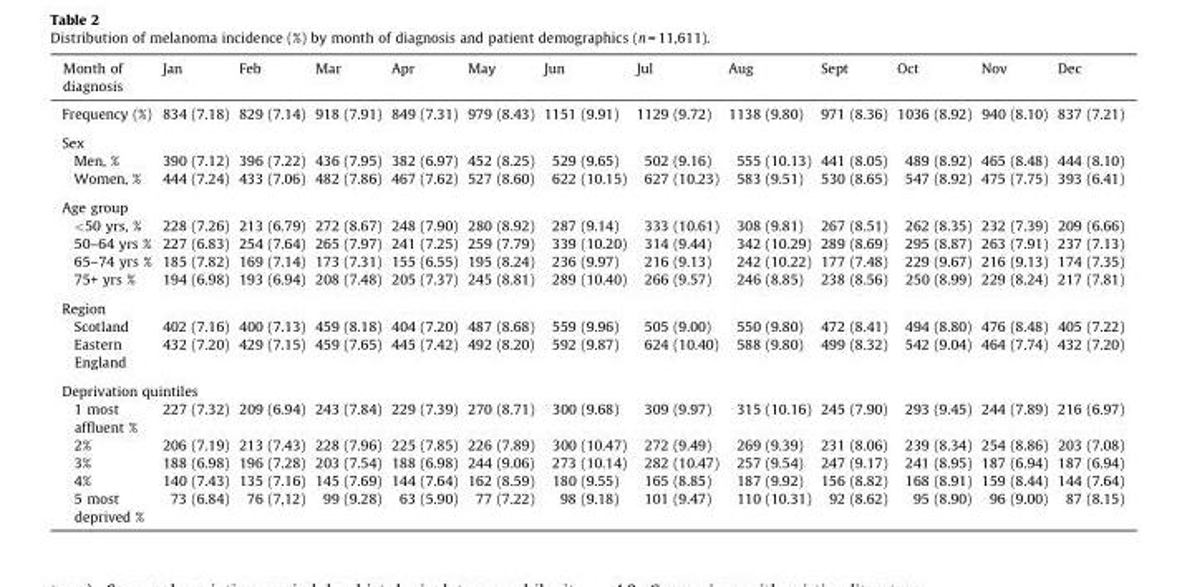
<table><thead><tr><td>Month of diagnosis</td><td>Jan</td><td>Feb</td><td>Mar</td><td>Apr</td><td>May</td><td>Jun</td><td>Jul</td><td>Aug</td><td>Sept</td><td>Oct</td><td>Nov</td><td>Dec</td></tr></thead><tbody><tr><td>Frequency (%)</td><td>834 (7.18)</td><td>829 (7.14)</td><td>918 (7.91)</td><td>849 (7.31)</td><td>979 (8.43)</td><td>1151 (9.91)</td><td>1129 (9.72)</td><td>1138 (9.80)</td><td>971 (8.36)</td><td>1036 (8.92)</td><td>940 (8.10)</td><td>837 (7.21)</td></tr><tr><td colspan="13">Sex</td></tr><tr><td>Men, %</td><td>390 (7.12)</td><td>396 (7.22)</td><td>436 (7.95)</td><td>382 (6.97)</td><td>452 (8.25)</td><td>529 (9.65)</td><td>502 (9.16)</td><td>555 (10.13)</td><td>441 (8.05)</td><td>489 (8.92)</td><td>465 (8.48)</td><td>444 (8.10)</td></tr><tr><td>Women, %</td><td>444 (7.24)</td><td>433 (7.06)</td><td>482 (7.86)</td><td>467 (7.62)</td><td>527 (8.60)</td><td>622 (10.15)</td><td>627 (10.23)</td><td>583 (9.51)</td><td>530 (8.65)</td><td>547 (8.92)</td><td>475 (7.75)</td><td>393 (6.41)</td></tr><tr><td colspan="13">Age group</td></tr><tr><td>&lt;50 yrs, %</td><td>228 (7.26)</td><td>213 (6.79)</td><td>272 (8.67)</td><td>248 (7.90)</td><td>280 (8.92)</td><td>287 (9.14)</td><td>333 (10.61)</td><td>308 (9.81)</td><td>267 (8.51)</td><td>262 (8.35)</td><td>232 (7.39)</td><td>209 (6.66)</td></tr><tr><td>50–64 yrs %</td><td>227 (6.83)</td><td>254 (7.64)</td><td>265 (7.97)</td><td>241 (7.25)</td><td>259 (7.79)</td><td>339 (10.20)</td><td>314 (9.44)</td><td>342 (10.29)</td><td>289 (8.69)</td><td>295 (8.87)</td><td>263 (7.91)</td><td>237 (7.13)</td></tr><tr><td>65–74 yrs %</td><td>185 (7.82)</td><td>169 (7.14)</td><td>173 (7.31)</td><td>155 (6.55)</td><td>195 (8.24)</td><td>236 (9.97)</td><td>216 (9.13)</td><td>242 (10.22)</td><td>177 (7.48)</td><td>229 (9.67)</td><td>216 (9.13)</td><td>174 (7.35)</td></tr><tr><td>75+ yrs %</td><td>194 (6.98)</td><td>193 (6.94)</td><td>208 (7.48)</td><td>205 (7.37)</td><td>245 (8.81)</td><td>289 (10.40)</td><td>266 (9.57)</td><td>246 (8.85)</td><td>238 (8.56)</td><td>250 (8.99)</td><td>229 (8.24)</td><td>217 (7.81)</td></tr><tr><td colspan="13">Region</td></tr><tr><td>Scotland</td><td>402 (7.16)</td><td>400 (7.13)</td><td>459 (8.18)</td><td>404 (7.20)</td><td>487 (8.68)</td><td>559 (9.96)</td><td>505 (9.00)</td><td>550 (9.80)</td><td>472 (8.41)</td><td>494 (8.80)</td><td>476 (8.48)</td><td>405 (7.22)</td></tr><tr><td>Eastern England</td><td>432 (7.20)</td><td>429 (7.15)</td><td>459 (7.65)</td><td>445 (7.42)</td><td>492 (8.20)</td><td>592 (9.87)</td><td>624 (10.40)</td><td>588 (9.80)</td><td>499 (8.32)</td><td>542 (9.04)</td><td>464 (7.74)</td><td>432 (7.20)</td></tr><tr><td colspan="13">Deprivation quintiles</td></tr><tr><td>1 most affluent %</td><td>227 (7.32)</td><td>209 (6.94)</td><td>243 (7.84)</td><td>229 (7.39)</td><td>270 (8.71)</td><td>300 (9.68)</td><td>309 (9.97)</td><td>315 (10.16)</td><td>245 (7.90)</td><td>293 (9.45)</td><td>244 (7.89)</td><td>216 (6.97)</td></tr><tr><td>2%</td><td>206 (7.19)</td><td>213 (7.43)</td><td>228 (7.96)</td><td>225 (7.85)</td><td>226 (7.89)</td><td>300 (10.47)</td><td>272 (9.49)</td><td>269 (9.39)</td><td>231 (8.06)</td><td>239 (8.34)</td><td>254 (8.86)</td><td>203 (7.08)</td></tr><tr><td>3%</td><td>188 (6.98)</td><td>196 (7.28)</td><td>203 (7.54)</td><td>188 (6.98)</td><td>244 (9.06)</td><td>273 (10.14)</td><td>282 (10.47)</td><td>257 (9.54)</td><td>247 (9.17)</td><td>241 (8.95)</td><td>187 (6.94)</td><td>187 (6.94)</td></tr><tr><td>4%</td><td>140 (7.43)</td><td>135 (7.16)</td><td>145 (7.69)</td><td>144 (7.64)</td><td>162 (8.59)</td><td>180 (9.55)</td><td>165 (8.85)</td><td>187 (9.92)</td><td>156 (8.82)</td><td>168 (8.91)</td><td>159 (8.44)</td><td>144 (7.64)</td></tr><tr><td>5 most deprived %</td><td>73 (6.84)</td><td>76 (7,12)</td><td>99 (9.28)</td><td>63 (5.90)</td><td>77 (7.22)</td><td>98 (9.18)</td><td>101 (9.47)</td><td>110 (10.31)</td><td>92 (8.62)</td><td>95 (8.90)</td><td>96 (9.00)</td><td>87 (8.15)</td></tr></tbody></table>